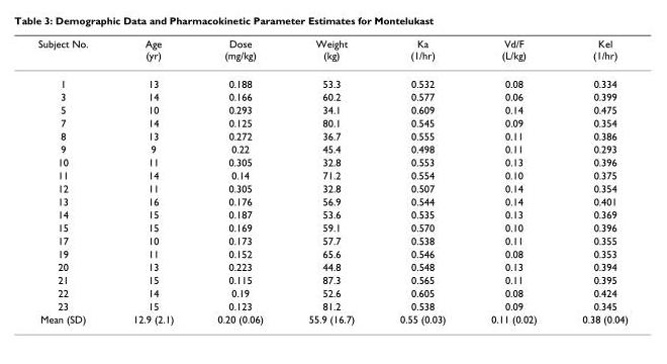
<table><thead><tr><td>Subject No.</td><td>Age (yr)</td><td>Dose (mg/kg)</td><td>Weight (kg)</td><td>Ka (1/hr)</td><td>Vd/F (L/kg)</td><td>Kel (1/hr)</td></tr></thead><tbody><tr><td>1</td><td>13</td><td>0.188</td><td>53.3</td><td>0.532</td><td>0.08</td><td>0.334</td></tr><tr><td>3</td><td>14</td><td>0.166</td><td>60.2</td><td>0.577</td><td>0.06</td><td>0.399</td></tr><tr><td>5</td><td>10</td><td>0.293</td><td>34.1</td><td>0.609</td><td>0.14</td><td>0.475</td></tr><tr><td>7</td><td>14</td><td>0.125</td><td>80.1</td><td>0.545</td><td>0.09</td><td>0.354</td></tr><tr><td>8</td><td>13</td><td>0.272</td><td>36.7</td><td>0.555</td><td>0.11</td><td>0.386</td></tr><tr><td>9</td><td>9</td><td>0.22</td><td>45.4</td><td>0.498</td><td>0.11</td><td>0.293</td></tr><tr><td>10</td><td>11</td><td>0.305</td><td>32.8</td><td>0.553</td><td>0.13</td><td>0.396</td></tr><tr><td>11</td><td>14</td><td>0.14</td><td>71.2</td><td>0.554</td><td>0.10</td><td>0.375</td></tr><tr><td>12</td><td>11</td><td>0.305</td><td>32.8</td><td>0.507</td><td>0.14</td><td>0.354</td></tr><tr><td>13</td><td>16</td><td>0.176</td><td>56.9</td><td>0.544</td><td>0.14</td><td>0.401</td></tr><tr><td>14</td><td>15</td><td>0.187</td><td>53.6</td><td>0.535</td><td>0.13</td><td>0.369</td></tr><tr><td>15</td><td>15</td><td>0.169</td><td>59.1</td><td>0.570</td><td>0.10</td><td>0.396</td></tr><tr><td>17</td><td>10</td><td>0.173</td><td>57.7</td><td>0.538</td><td>0.11</td><td>0.355</td></tr><tr><td>19</td><td>11</td><td>0.152</td><td>65.6</td><td>0.546</td><td>0.08</td><td>0.353</td></tr><tr><td>20</td><td>13</td><td>0.223</td><td>44.8</td><td>0.548</td><td>0.13</td><td>0.394</td></tr><tr><td>21</td><td>15</td><td>0.115</td><td>87.3</td><td>0.565</td><td>0.11</td><td>0.395</td></tr><tr><td>22</td><td>14</td><td>0.19</td><td>52.6</td><td>0.605</td><td>0.08</td><td>0.424</td></tr><tr><td>23</td><td>15</td><td>0.123</td><td>81.2</td><td>0.538</td><td>0.09</td><td>0.345</td></tr><tr><td>Mean (SD)</td><td>12.9 (2.1)</td><td>0.20 (0.06)</td><td>55.9 (16.7)</td><td>0.55 (0.03)</td><td>0.11 (0.02)</td><td>0.38 (0.04)</td></tr></tbody></table>